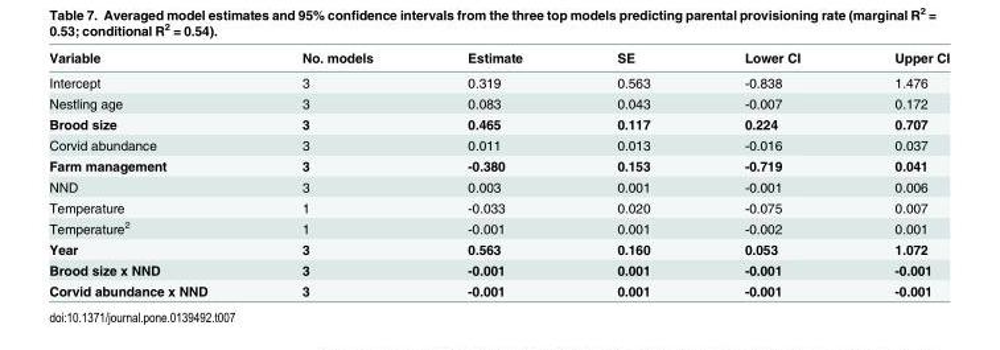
<table><thead><tr><td>Variable</td><td>No. models</td><td>Estimate</td><td>SE</td><td>Lower CI</td><td>Upper CI</td></tr></thead><tbody><tr><td>Intercept</td><td>3</td><td>0.319</td><td>0.563</td><td>-0.838</td><td>1.476</td></tr><tr><td>Nestling age</td><td>3</td><td>0.083</td><td>0.043</td><td>-0.007</td><td>0.172</td></tr><tr><td>Brood size</td><td>3</td><td>0.465</td><td>0.117</td><td>0.224</td><td>0.707</td></tr><tr><td>Corvid abundance</td><td>3</td><td>0.011</td><td>0.013</td><td>-0.016</td><td>0.037</td></tr><tr><td>Farm management</td><td>3</td><td>-0.380</td><td>0.153</td><td>-0.719</td><td>0.041</td></tr><tr><td>NND</td><td>3</td><td>0.003</td><td>0.001</td><td>-0.001</td><td>0.006</td></tr><tr><td>Temperature</td><td>1</td><td>-0.033</td><td>0.020</td><td>-0.075</td><td>0.007</td></tr><tr><td>Temperature<sup>2</sup></td><td>1</td><td>-0.001</td><td>0.001</td><td>-0.002</td><td>0.001</td></tr><tr><td>Year</td><td>3</td><td>0.563</td><td>0.160</td><td>0.053</td><td>1.072</td></tr><tr><td>Brood size x NND</td><td>3</td><td>-0.001</td><td>0.001</td><td>-0.001</td><td>-0.001</td></tr><tr><td>Corvid abundance x NND</td><td>3</td><td>-0.001</td><td>0.001</td><td>-0.001</td><td>-0.001</td></tr></tbody></table>